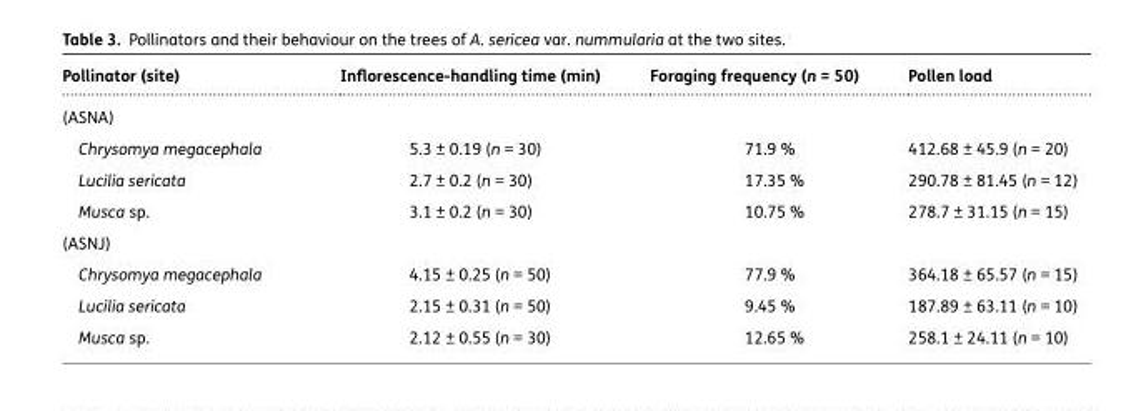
<table><thead><tr><td>Pollinator (site)</td><td>Inflorescence-handling time (min)</td><td>Foraging frequency (n = 50)</td><td>Pollen load</td></tr></thead><tbody><tr><td colspan="4">(ASNA)</td></tr><tr><td>Chrysomya megacephala</td><td>5.3 ± 0.19 (n = 30)</td><td>71.9 %</td><td>412.68 ± 45.9 (n = 20)</td></tr><tr><td>Lucilia sericata</td><td>2.7 ± 0.2 (n = 30)</td><td>17.35 %</td><td>290.78 ± 81.45 (n = 12)</td></tr><tr><td>Musca sp.</td><td>3.1 ± 0.2 (n = 30)</td><td>10.75 %</td><td>278.7 ± 31.15 (n = 15)</td></tr><tr><td colspan="4">(ASNJ)</td></tr><tr><td>Chrysomya megacephala</td><td>4.15 ± 0.25 (n = 50)</td><td>77.9 %</td><td>364.18 ± 65.57 (n = 15)</td></tr><tr><td>Lucilia sericata</td><td>2.15 ± 0.31 (n = 50)</td><td>9.45 %</td><td>187.89 ± 63.11 (n = 10)</td></tr><tr><td>Musca sp.</td><td>2.12 ± 0.55 (n = 30)</td><td>12.65 %</td><td>258.1 ± 24.11 (n = 10)</td></tr></tbody></table>